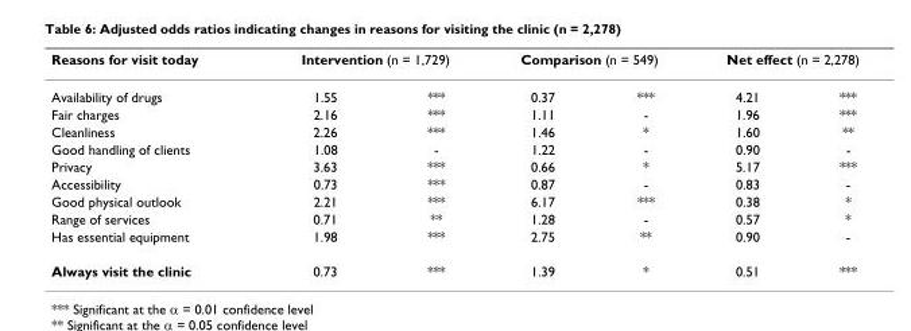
<table><thead><tr><td rowspan="2">Reasons for visit today Availability of drugs</td><td colspan="2">Intervention (n = 1,729)</td><td colspan="2">Comparison (n = 549)</td><td colspan="2">Net effect (n = 2,278)</td></tr><tr><td>1.55</td><td>***</td><td>0.37</td><td>***</td><td>4.21</td><td>***</td></tr></thead><tbody><tr><td>Fair charges</td><td>2.16</td><td>***</td><td>1.11</td><td>-</td><td>1.96</td><td>***</td></tr><tr><td>Cleanliness</td><td>2.26</td><td>***</td><td>1.46</td><td>*</td><td>1.60</td><td>**</td></tr><tr><td>Good handling of clients</td><td>1.08</td><td>-</td><td>1.22</td><td>-</td><td>0.90</td><td>-</td></tr><tr><td>Privacy</td><td>3.63</td><td>***</td><td>0.66</td><td>*</td><td>5.17</td><td>***</td></tr><tr><td>Accessibility</td><td>0.73</td><td>***</td><td>0.87</td><td>-</td><td>0.83</td><td>-</td></tr><tr><td>Good physical outlook</td><td>2.21</td><td>***</td><td>6.17</td><td>***</td><td>0.38</td><td>*</td></tr><tr><td>Range of services</td><td>0.71</td><td>**</td><td>1.28</td><td>-</td><td>0.57</td><td>*</td></tr><tr><td>Has essential equipment</td><td>1.98</td><td>***</td><td>2.75</td><td>**</td><td>0.90</td><td>-</td></tr><tr><td>Always visit the clinic</td><td>0.73</td><td>***</td><td>1.39</td><td>*</td><td>0.51</td><td>***</td></tr></tbody></table>